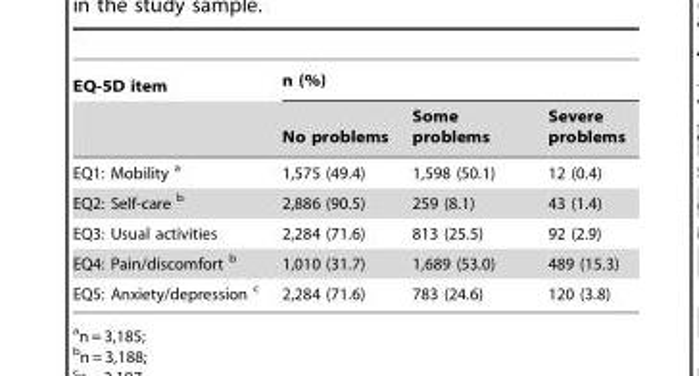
<table><thead><tr><td rowspan="2">EQ-5D item</td><td colspan="3">n (%)</td></tr><tr><td>No problems</td><td>Some problems</td><td>Severe problems</td></tr></thead><tbody><tr><td>EQ1: Mobility a</td><td>1,575 (49.4)</td><td>1,598 (50.1)</td><td>12 (0.4)</td></tr><tr><td>EQ2: Self-care b</td><td>2,886 (90.5)</td><td>259 (8.1)</td><td>43 (1.4)</td></tr><tr><td>EQ3: Usual activities</td><td>2,284 (71.6)</td><td>813 (25.5)</td><td>92 (2.9)</td></tr><tr><td>EQ4: Pain/discomfort b</td><td>1,010 (31.7)</td><td>1,689 (53.0)</td><td>489 (15.3)</td></tr><tr><td>EQ5: Anxiety/depression c</td><td>2,284 (71.6)</td><td>783 (24.6)</td><td>120 (3.8)</td></tr></tbody></table>